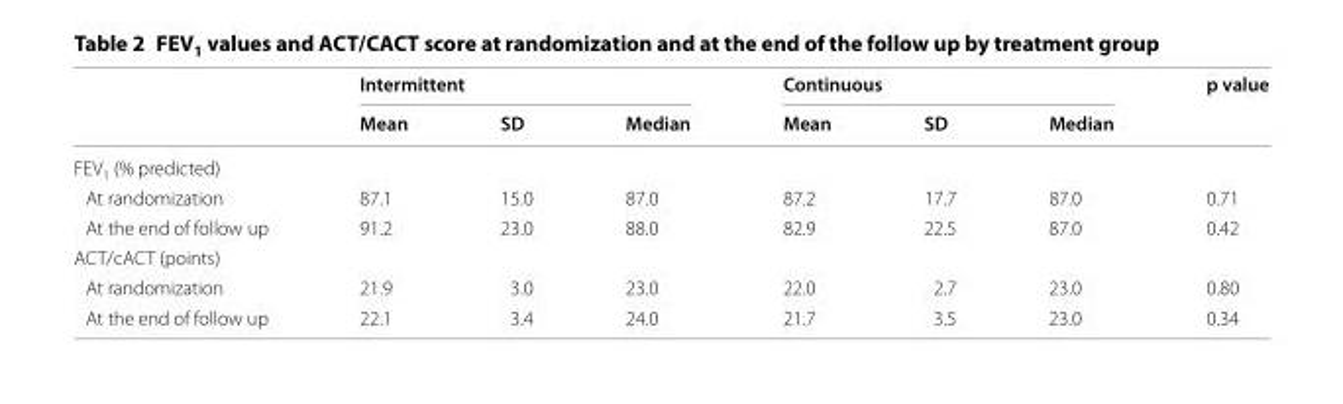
<table><thead><tr><td rowspan="2"></td><td colspan="3">Intermittent</td><td colspan="3">Continuous</td><td rowspan="2">p value</td></tr><tr><td>Mean</td><td>SD</td><td>Median</td><td>Mean</td><td>SD</td><td>Median</td></tr></thead><tbody><tr><td colspan="8">FEV<sub>1</sub> (% predicted)</td></tr><tr><td>At randomization</td><td>87.1</td><td>15.0</td><td>87.0</td><td>87.2</td><td>17.7</td><td>87.0</td><td>0.71</td></tr><tr><td>At the end of follow up</td><td>91.2</td><td>23.0</td><td>88.0</td><td>82.9</td><td>22.5</td><td>87.0</td><td>0.42</td></tr><tr><td colspan="8">ACT/cACT (points)</td></tr><tr><td>At randomization</td><td>21.9</td><td>3.0</td><td>23.0</td><td>22.0</td><td>2.7</td><td>23.0</td><td>0.80</td></tr><tr><td>At the end of follow up</td><td>22.1</td><td>3.4</td><td>24.0</td><td>21.7</td><td>3.5</td><td>23.0</td><td>0.34</td></tr></tbody></table>